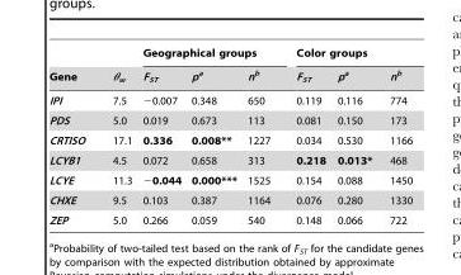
<table><thead><tr><td rowspan="2">Gene</td><td rowspan="2">θ<sub>w</sub></td><td colspan="3">Geographical groups</td><td colspan="3">Color groups</td></tr><tr><td>F<sub>ST</sub></td><td>pa</td><td>nb</td><td>F<sub>ST</sub></td><td>pa</td><td>nb</td></tr></thead><tbody><tr><td>IPI</td><td>7.5</td><td>−0.007</td><td>0.348</td><td>650</td><td>0.119</td><td>0.116</td><td>774</td></tr><tr><td>PDS</td><td>5.0</td><td>0.019</td><td>0.673</td><td>113</td><td>0.081</td><td>0.150</td><td>173</td></tr><tr><td>CRTISO</td><td>17.1</td><td>0.336</td><td>0.008**</td><td>1227</td><td>0.034</td><td>0.530</td><td>1166</td></tr><tr><td>LCYB1</td><td>4.5</td><td>0.072</td><td>0.658</td><td>313</td><td>0.218</td><td>0.013*</td><td>468</td></tr><tr><td>LCYE</td><td>11.3</td><td>−0.044</td><td>0.000***</td><td>1525</td><td>0.154</td><td>0.088</td><td>1450</td></tr><tr><td>CHXE</td><td>9.5</td><td>0.103</td><td>0.387</td><td>1164</td><td>0.076</td><td>0.280</td><td>1330</td></tr><tr><td>ZEP</td><td>5.0</td><td>0.266</td><td>0.059</td><td>540</td><td>0.148</td><td>0.066</td><td>722</td></tr></tbody></table>